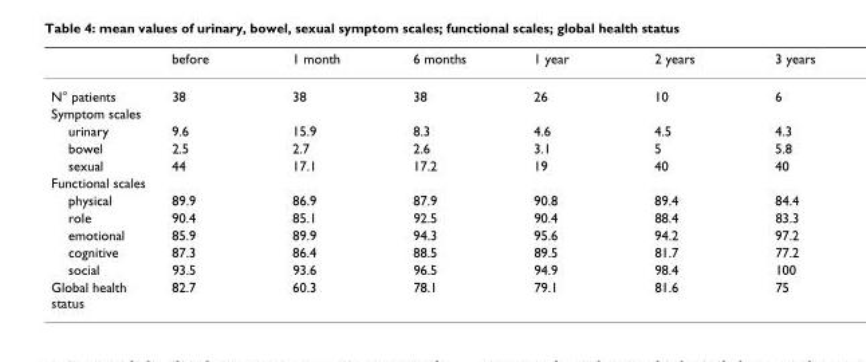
<table><thead><tr><td></td><td>before</td><td>1 month</td><td>6 months</td><td>1 year</td><td>2 years</td><td>3 years</td></tr></thead><tbody><tr><td>N° patients</td><td>38</td><td>38</td><td>38</td><td>26</td><td>10</td><td>6</td></tr><tr><td colspan="7">Symptom scales</td></tr><tr><td>urinary</td><td>9.6</td><td>15.9</td><td>8.3</td><td>4.6</td><td>4.5</td><td>4.3</td></tr><tr><td>bowel</td><td>2.5</td><td>2.7</td><td>2.6</td><td>3.1</td><td>5</td><td>5.8</td></tr><tr><td>sexual</td><td>44</td><td>17.1</td><td>17.2</td><td>19</td><td>40</td><td>40</td></tr><tr><td colspan="7">Functional scales</td></tr><tr><td>physical</td><td>89.9</td><td>86.9</td><td>87.9</td><td>90.8</td><td>89.4</td><td>84.4</td></tr><tr><td>role</td><td>90.4</td><td>85.1</td><td>92.5</td><td>90.4</td><td>88.4</td><td>83.3</td></tr><tr><td>emotional</td><td>85.9</td><td>89.9</td><td>94.3</td><td>95.6</td><td>94.2</td><td>97.2</td></tr><tr><td>cognitive</td><td>87.3</td><td>86.4</td><td>88.5</td><td>89.5</td><td>81.7</td><td>77.2</td></tr><tr><td>social</td><td>93.5</td><td>93.6</td><td>96.5</td><td>94.9</td><td>98.4</td><td>100</td></tr><tr><td>Global health status</td><td>82.7</td><td>60.3</td><td>78.1</td><td>79.1</td><td>81.6</td><td>75</td></tr></tbody></table>